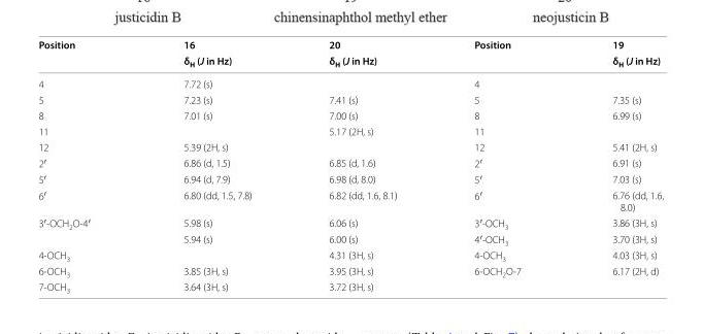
<table><thead><tr><td rowspan="2">Position</td><td rowspan="2">16 δ<sub>H</sub> (J in Hz)</td><td rowspan="2">20 δ<sub>H</sub> (J in Hz)</td><td rowspan="2">Position</td><td rowspan="2">19 δ<sub>H</sub> (J in Hz)</td></tr><tr></tr></thead><tbody><tr><td>4</td><td>7.72 (s)</td><td></td><td>4</td><td></td></tr><tr><td>5</td><td>7.23 (s)</td><td>7.41 (s)</td><td>5</td><td>7.35 (s)</td></tr><tr><td>8</td><td>7.01 (s)</td><td>7.00 (s)</td><td>8</td><td>6.99 (s)</td></tr><tr><td>11</td><td></td><td>5.17 (2H, s)</td><td>11</td><td></td></tr><tr><td>12</td><td>5.39 (2H, s)</td><td></td><td>12</td><td>5.41 (2H, s)</td></tr><tr><td>2′</td><td>6.86 (d, 1.5)</td><td>6.85 (d, 1.6)</td><td>2′</td><td>6.91 (s)</td></tr><tr><td>5′</td><td>6.94 (d, 7.9)</td><td>6.98 (d, 8.0)</td><td>5′</td><td>7.03 (s)</td></tr><tr><td>6′</td><td>6.80 (dd, 1.5, 7.8)</td><td>6.82 (dd, 1.6, 8.1)</td><td>6′</td><td>6.76 (dd, 1.6, 8.0)</td></tr><tr><td rowspan="2">3′-OCH<sub>2</sub>O-4′</td><td>5.98 (s)</td><td>6.06 (s)</td><td>3′-OCH<sub>3</sub></td><td>3.86 (3H, s)</td></tr><tr><td>5.94 (s)</td><td>6.00 (s)</td><td>4′-OCH<sub>3</sub></td><td>3.70 (3H, s)</td></tr><tr><td>4-OCH<sub>3</sub></td><td></td><td>4.31 (3H, s)</td><td>4-OCH<sub>3</sub></td><td>4.03 (3H, s)</td></tr><tr><td>6-OCH<sub>3</sub></td><td>3.85 (3H, s)</td><td>3.95 (3H, s)</td><td rowspan="2">6-OCH<sub>2</sub>O-7</td><td rowspan="2">6.17 (2H, d)</td></tr><tr><td>7-OCH<sub>3</sub></td><td>3.64 (3H, s)</td><td>3.72 (3H, s)</td></tr></tbody></table>